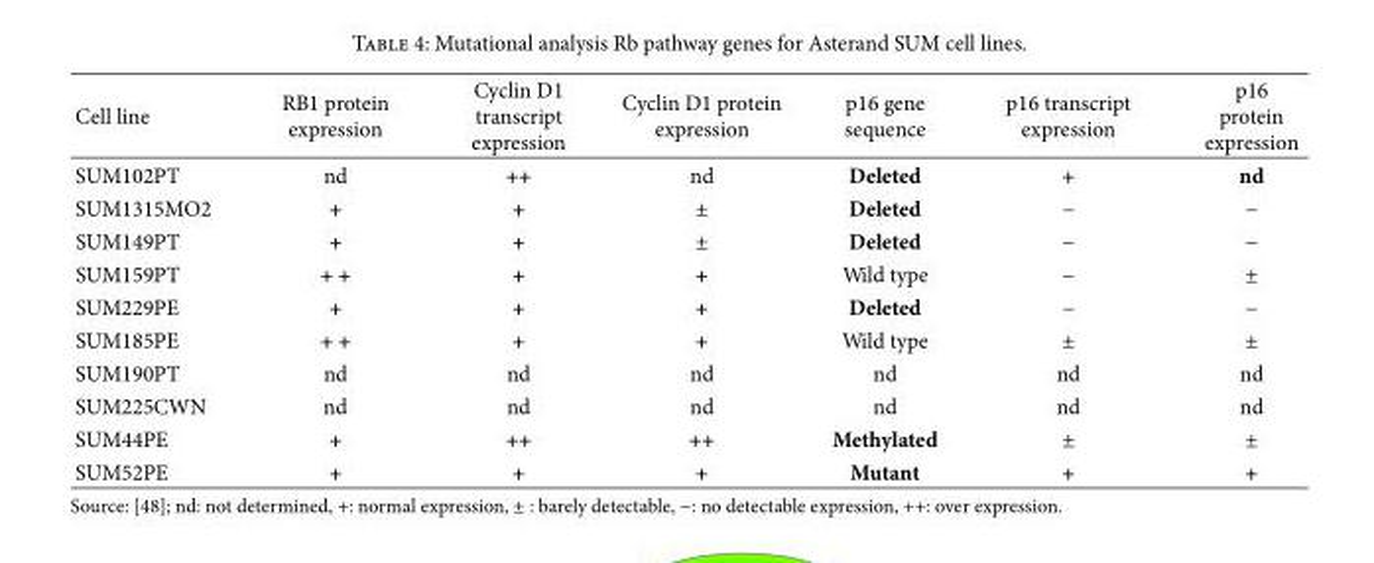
<table><thead><tr><td>Cell line</td><td>RB1 protein expression</td><td>Cyclin D1 transcript expression</td><td>Cyclin D1 protein expression</td><td>p16 gene sequence</td><td>p16 transcript expression</td><td>p16 protein expression</td></tr></thead><tbody><tr><td>SUM102PT</td><td>nd</td><td>++</td><td>nd</td><td>Deleted</td><td>+</td><td>nd</td></tr><tr><td>SUM1315MO2</td><td>+</td><td>+</td><td>±</td><td>Deleted</td><td>−</td><td>−</td></tr><tr><td>SUM149PT</td><td>+</td><td>+</td><td>±</td><td>Deleted</td><td>−</td><td>−</td></tr><tr><td>SUM159PT</td><td>+ +</td><td>+</td><td>+</td><td>Wild type</td><td>−</td><td>±</td></tr><tr><td>SUM229PE</td><td>+</td><td>+</td><td>+</td><td>Deleted</td><td>−</td><td>−</td></tr><tr><td>SUM185PE</td><td>+ +</td><td>+</td><td>+</td><td>Wild type</td><td>±</td><td>±</td></tr><tr><td>SUM190PT</td><td>nd</td><td>nd</td><td>nd</td><td>nd</td><td>nd</td><td>nd</td></tr><tr><td>SUM225CWN</td><td>nd</td><td>nd</td><td>nd</td><td>nd</td><td>nd</td><td>nd</td></tr><tr><td>SUM44PE</td><td>+</td><td>++</td><td>++</td><td>Methylated</td><td>±</td><td>±</td></tr><tr><td>SUM52PE</td><td>+</td><td>+</td><td>+</td><td>Mutant</td><td>+</td><td>+</td></tr></tbody></table>